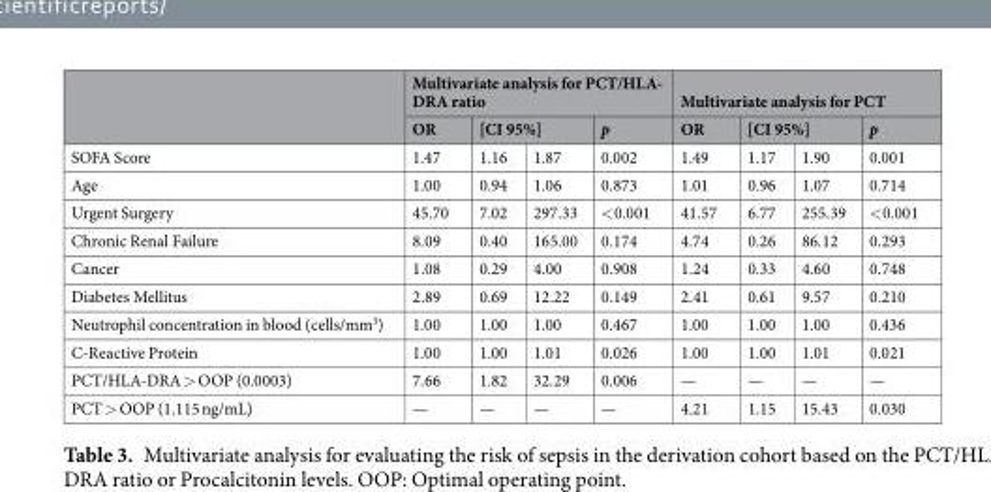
<table><thead><tr><td rowspan="3">SOFA Score</td><td colspan="4">Multivariate analysis for PCT/HLA- DRA ratio</td><td colspan="4">Multivariate analysis for PCT</td></tr><tr><td rowspan="2">OR 1.47</td><td colspan="2">[CI 95%]</td><td rowspan="2">p 0.002</td><td rowspan="2">OR 1.49</td><td colspan="2">[CI 95%]</td><td rowspan="2">p 0.001</td></tr><tr><td>1.16</td><td>1.87</td><td>1.17</td><td>1.90</td></tr></thead><tbody><tr><td>Age</td><td>1.00</td><td>0.94</td><td>1.06</td><td>0.873</td><td>1.01</td><td>0.96</td><td>1.07</td><td>0.714</td></tr><tr><td>Urgent Surgery</td><td>45.70</td><td>7.02</td><td>297.33</td><td>&lt;0.001</td><td>41.57</td><td>6.77</td><td>255.39</td><td>&lt;0.001</td></tr><tr><td>Chronic Renal Failure</td><td>8.09</td><td>0.40</td><td>165.00</td><td>0.174</td><td>4.74</td><td>0.26</td><td>86.12</td><td>0.293</td></tr><tr><td>Cancer</td><td>1.08</td><td>0.29</td><td>4.00</td><td>0.908</td><td>1.24</td><td>0.33</td><td>4.60</td><td>0.748</td></tr><tr><td>Diabetes Mellitus</td><td>2.89</td><td>0.69</td><td>12.22</td><td>0.149</td><td>2.41</td><td>0.61</td><td>9.57</td><td>0.210</td></tr><tr><td>Neutrophil concentration in blood (cells/mm<sup>3</sup>)</td><td>1.00</td><td>1.00</td><td>1.00</td><td>0.467</td><td>1.00</td><td>1.00</td><td>1.00</td><td>0.436</td></tr><tr><td>C-Reactive Protein</td><td>1.00</td><td>1.00</td><td>1.01</td><td>0.026</td><td>1.00</td><td>1.00</td><td>1.01</td><td>0.021</td></tr><tr><td>PCT/HLA-DRA &gt; OOP (0.0003)</td><td>7.66</td><td>1.82</td><td>32.29</td><td>0.006</td><td>—</td><td>—</td><td>—</td><td>—</td></tr><tr><td>PCT &gt; OOP (1.115 ng/mL)</td><td>—</td><td>—</td><td>—</td><td>—</td><td>4.21</td><td>1.15</td><td>15.43</td><td>0.030</td></tr></tbody></table>